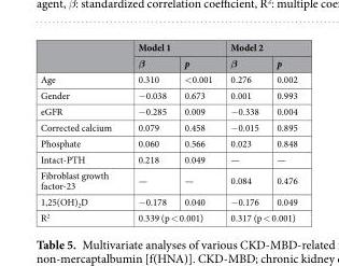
<table><thead><tr><td rowspan="2"></td><td colspan="2">Model 1</td><td colspan="2">Model 2</td></tr><tr><td>β</td><td>p</td><td>β</td><td>p</td></tr></thead><tbody><tr><td>Age</td><td>0.310</td><td>&lt;0.001</td><td>0.276</td><td>0.002</td></tr><tr><td>Gender</td><td>−0.038</td><td>0.673</td><td>0.001</td><td>0.993</td></tr><tr><td>eGFR</td><td>−0.285</td><td>0.009</td><td>−0.338</td><td>0.004</td></tr><tr><td>Corrected calcium</td><td>0.079</td><td>0.458</td><td>−0.015</td><td>0.895</td></tr><tr><td>Phosphate</td><td>0.060</td><td>0.566</td><td>0.023</td><td>0.848</td></tr><tr><td>Intact-PTH</td><td>0.218</td><td>0.049</td><td>—</td><td>—</td></tr><tr><td>Fibroblast growth factor-23</td><td>—</td><td>—</td><td>0.084</td><td>0.476</td></tr><tr><td>1,25(OH)<sub>2</sub>D</td><td>−0.178</td><td>0.040</td><td>−0.176</td><td>0.049</td></tr><tr><td>R<sup>2</sup></td><td colspan="2">0.339 (p &lt; 0.001)</td><td colspan="2">0.317 (p &lt; 0.001)</td></tr></tbody></table>